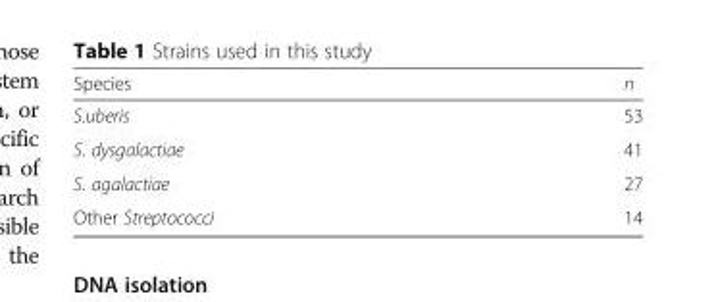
<table><thead><tr><td>Species</td><td>n</td></tr></thead><tbody><tr><td>S.uberis</td><td>53</td></tr><tr><td>S. dysgalactiae</td><td>41</td></tr><tr><td>S. agalactiae</td><td>27</td></tr><tr><td>Other Streptococci</td><td>14</td></tr></tbody></table>